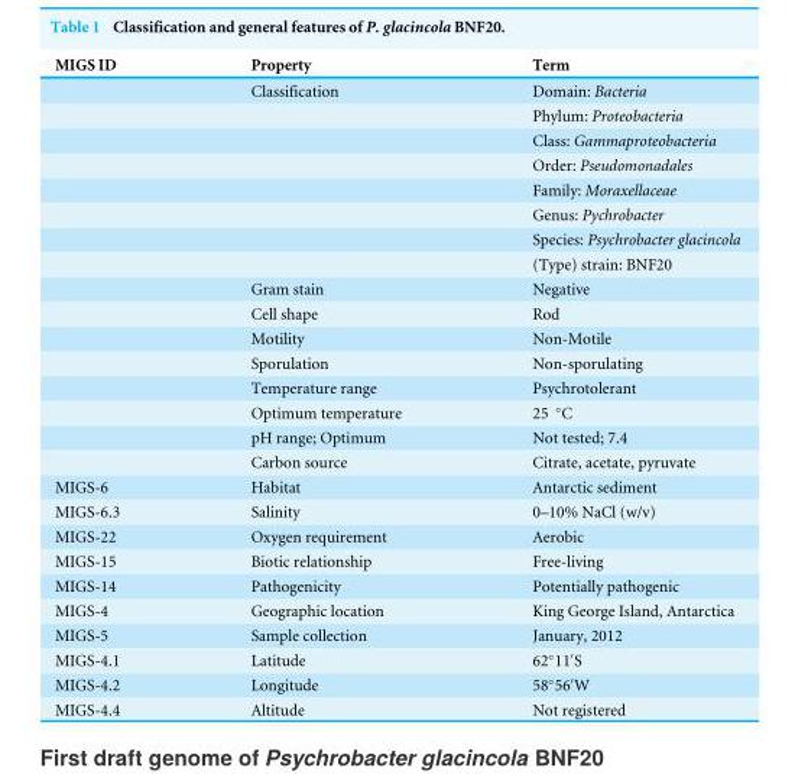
<table><thead><tr><td>MIGS ID</td><td>Property</td><td>Term</td></tr></thead><tbody><tr><td></td><td>Classification</td><td>Domain: Bacteria</td></tr><tr><td></td><td></td><td>Phylum: Proteobacteria</td></tr><tr><td></td><td></td><td>Class: Gammaproteobacteria</td></tr><tr><td></td><td></td><td>Order: Pseudomonadales</td></tr><tr><td></td><td></td><td>Family: Moraxellaceae</td></tr><tr><td></td><td></td><td>Genus: Pychrobacter</td></tr><tr><td></td><td></td><td>Species: Psychrobacter glacincola</td></tr><tr><td></td><td></td><td>(Type) strain: BNF20</td></tr><tr><td></td><td>Gram stain</td><td>Negative</td></tr><tr><td></td><td>Cell shape</td><td>Rod</td></tr><tr><td></td><td>Motility</td><td>Non-Motile</td></tr><tr><td></td><td>Sporulation</td><td>Non-sporulating</td></tr><tr><td></td><td>Temperature range</td><td>Psychrotolerant</td></tr><tr><td></td><td>Optimum temperature</td><td>25 ◦C</td></tr><tr><td></td><td>pH range; Optimum</td><td>Not tested; 7.4</td></tr><tr><td></td><td>Carbon source</td><td>Citrate, acetate, pyruvate</td></tr><tr><td>MIGS-6</td><td>Habitat</td><td>Antarctic sediment</td></tr><tr><td>MIGS-6.3</td><td>Salinity</td><td>0–10% NaCl (w/v)</td></tr><tr><td>MIGS-22</td><td>Oxygen requirement</td><td>Aerobic</td></tr><tr><td>MIGS-15</td><td>Biotic relationship</td><td>Free-living</td></tr><tr><td>MIGS-14</td><td>Pathogenicity</td><td>Potentially pathogenic</td></tr><tr><td>MIGS-4</td><td>Geographic location</td><td>King George Island, Antarctica</td></tr><tr><td>MIGS-5</td><td>Sample collection</td><td>January, 2012</td></tr><tr><td>MIGS-4.1</td><td>Latitude</td><td>62◦11′S</td></tr><tr><td>MIGS-4.2</td><td>Longitude</td><td>58◦56′W</td></tr><tr><td>MIGS-4.4</td><td>Altitude</td><td>Not registered</td></tr></tbody></table>